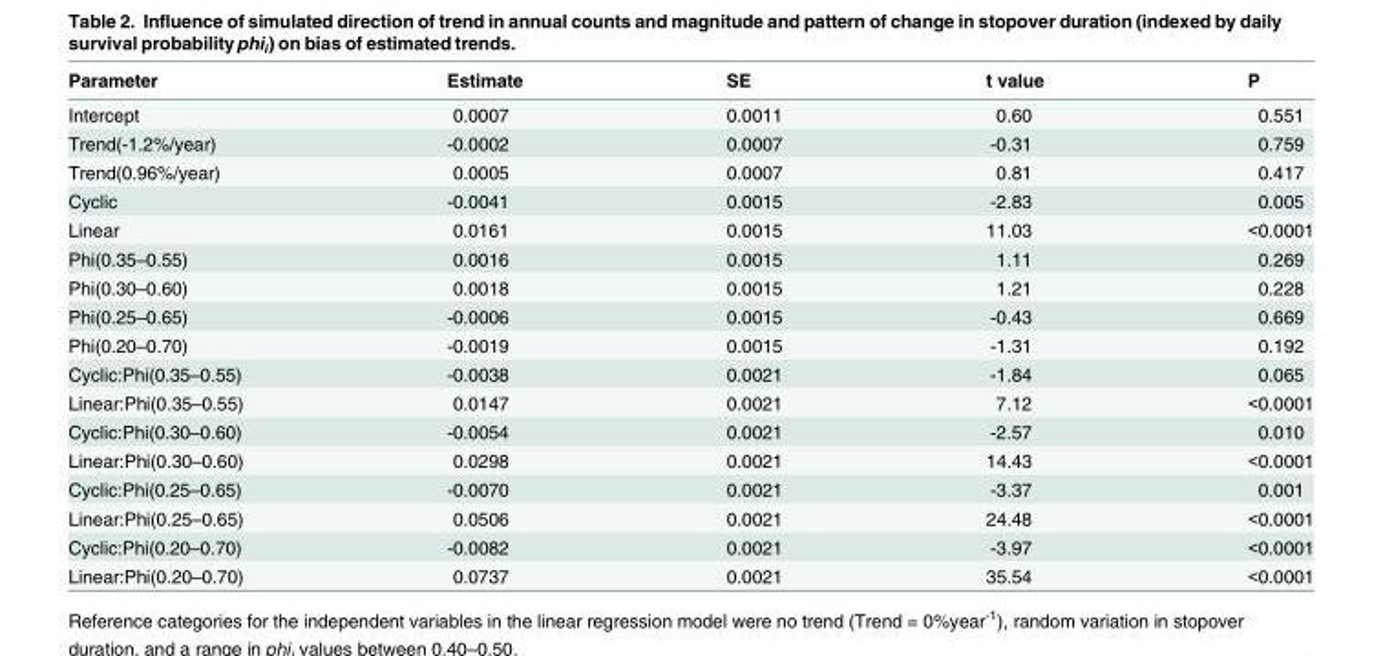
<table><thead><tr><td>Parameter</td><td>Estimate</td><td>SE</td><td>t value</td><td>P</td></tr></thead><tbody><tr><td>Intercept</td><td>0.0007</td><td>0.0011</td><td>0.60</td><td>0.551</td></tr><tr><td>Trend(-1.2%/year)</td><td>-0.0002</td><td>0.0007</td><td>-0.31</td><td>0.759</td></tr><tr><td>Trend(0.96%/year)</td><td>0.0005</td><td>0.0007</td><td>0.81</td><td>0.417</td></tr><tr><td>Cyclic</td><td>-0.0041</td><td>0.0015</td><td>-2.83</td><td>0.005</td></tr><tr><td>Linear</td><td>0.0161</td><td>0.0015</td><td>11.03</td><td>&lt;0.0001</td></tr><tr><td>Phi(0.35–0.55)</td><td>0.0016</td><td>0.0015</td><td>1.11</td><td>0.269</td></tr><tr><td>Phi(0.30–0.60)</td><td>0.0018</td><td>0.0015</td><td>1.21</td><td>0.228</td></tr><tr><td>Phi(0.25–0.65)</td><td>-0.0006</td><td>0.0015</td><td>-0.43</td><td>0.669</td></tr><tr><td>Phi(0.20–0.70)</td><td>-0.0019</td><td>0.0015</td><td>-1.31</td><td>0.192</td></tr><tr><td>Cyclic:Phi(0.35–0.55)</td><td>-0.0038</td><td>0.0021</td><td>-1.84</td><td>0.065</td></tr><tr><td>Linear:Phi(0.35–0.55)</td><td>0.0147</td><td>0.0021</td><td>7.12</td><td>&lt;0.0001</td></tr><tr><td>Cyclic:Phi(0.30–0.60)</td><td>-0.0054</td><td>0.0021</td><td>-2.57</td><td>0.010</td></tr><tr><td>Linear:Phi(0.30–0.60)</td><td>0.0298</td><td>0.0021</td><td>14.43</td><td>&lt;0.0001</td></tr><tr><td>Cyclic:Phi(0.25–0.65)</td><td>-0.0070</td><td>0.0021</td><td>-3.37</td><td>0.001</td></tr><tr><td>Linear:Phi(0.25–0.65)</td><td>0.0506</td><td>0.0021</td><td>24.48</td><td>&lt;0.0001</td></tr><tr><td>Cyclic:Phi(0.20–0.70)</td><td>-0.0082</td><td>0.0021</td><td>-3.97</td><td>&lt;0.0001</td></tr><tr><td>Linear:Phi(0.20–0.70)</td><td>0.0737</td><td>0.0021</td><td>35.54</td><td>&lt;0.0001</td></tr></tbody></table>